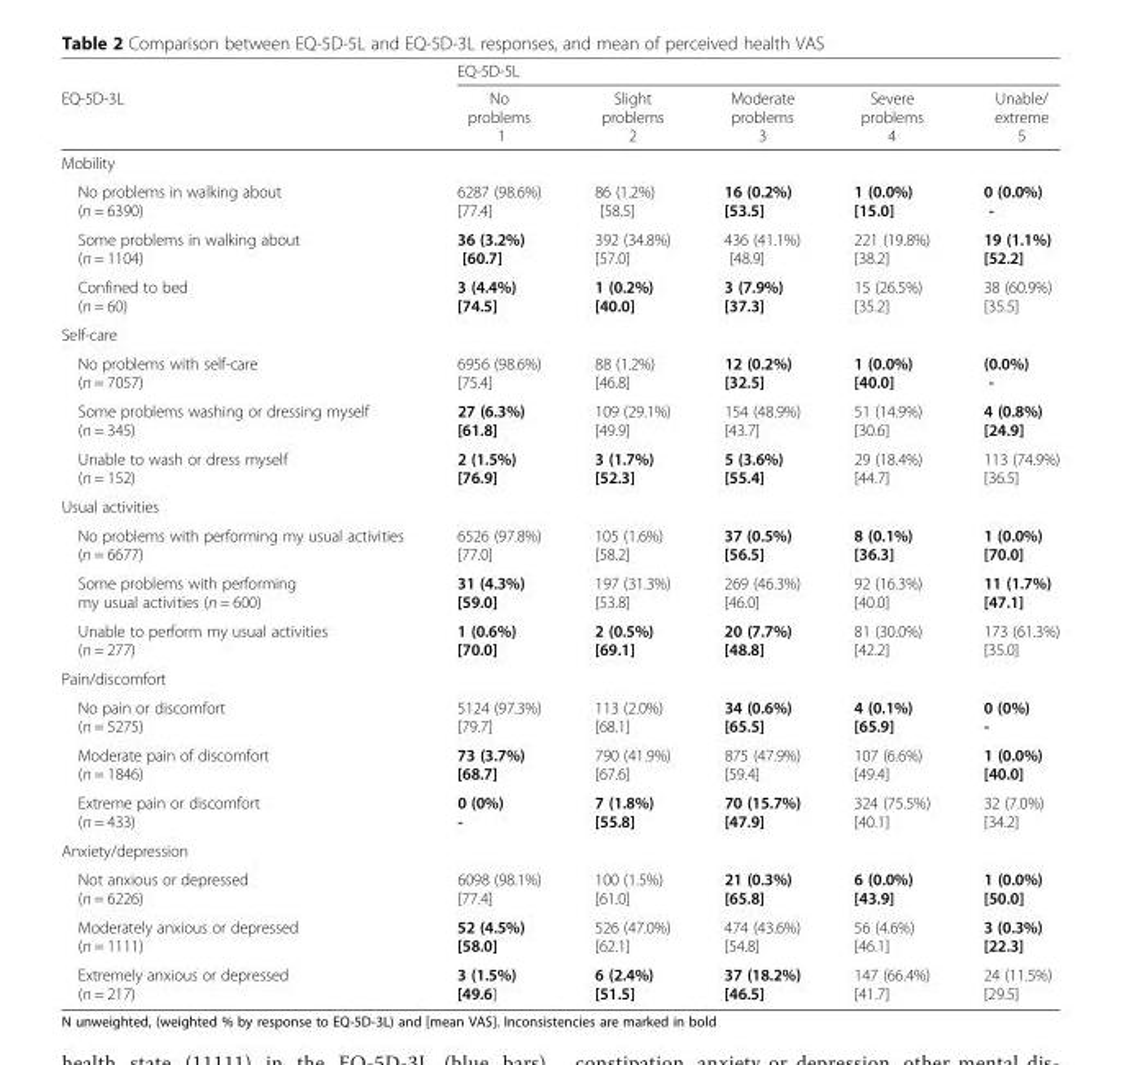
<table><thead><tr><td rowspan="2">EQ-5D-3L</td><td colspan="5">EQ-5D-5L</td></tr><tr><td>No problems 1</td><td>Slight problems 2</td><td>Moderate problems 3</td><td>Severe problems 4</td><td>Unable/ extreme 5</td></tr></thead><tbody><tr><td colspan="6">Mobility</td></tr><tr><td>No problems in walking about (n = 6390)</td><td>6287 (98.6%) [77.4]</td><td>86 (1.2%) [58.5]</td><td>16 (0.2%) [53.5]</td><td>1 (0.0%) [15.0]</td><td>0 (0.0%) -</td></tr><tr><td>Some problems in walking about (n = 1104)</td><td>36 (3.2%) [60.7]</td><td>392 (34.8%) [57.0]</td><td>436 (41.1%) [48.9]</td><td>221 (19.8%) [38.2]</td><td>19 (1.1%) [52.2]</td></tr><tr><td>Confined to bed (n = 60)</td><td>3 (4.4%) [74.5]</td><td>1 (0.2%) [40.0]</td><td>3 (7.9%) [37.3]</td><td>15 (26.5%) [35.2]</td><td>38 (60.9%) [35.5]</td></tr><tr><td colspan="6">Self-care</td></tr><tr><td>No problems with self-care (n = 7057)</td><td>6956 (98.6%) [75.4]</td><td>88 (1.2%) [46.8]</td><td>12 (0.2%) [32.5]</td><td>1 (0.0%) [40.0]</td><td>(0.0%) -</td></tr><tr><td>Some problems washing or dressing myself (n = 345)</td><td>27 (6.3%) [61.8]</td><td>109 (29.1%) [49.9]</td><td>154 (48.9%) [43.7]</td><td>51 (14.9%) [30.6]</td><td>4 (0.8%) [24.9]</td></tr><tr><td>Unable to wash or dress myself (n = 152)</td><td>2 (1.5%) [76.9]</td><td>3 (1.7%) [52.3]</td><td>5 (3.6%) [55.4]</td><td>29 (18.4%) [44.7]</td><td>113 (74.9%) [36.5]</td></tr><tr><td colspan="6">Usual activities</td></tr><tr><td>No problems with performing my usual activities (n = 6677)</td><td>6526 (97.8%) [77.0]</td><td>105 (1.6%) [58.2]</td><td>37 (0.5%) [56.5]</td><td>8 (0.1%) [36.3]</td><td>1 (0.0%) [70.0]</td></tr><tr><td>Some problems with performing my usual activities (n = 600)</td><td>31 (4.3%) [59.0]</td><td>197 (31.3%) [53.8]</td><td>269 (46.3%) [46.0]</td><td>92 (16.3%) [40.0]</td><td>11 (1.7%) [47.1]</td></tr><tr><td>Unable to perform my usual activities (n = 277)</td><td>1 (0.6%) [70.0]</td><td>2 (0.5%) [69.1]</td><td>20 (7.7%) [48.8]</td><td>81 (30.0%) [42.2]</td><td>173 (61.3%) [35.0]</td></tr><tr><td colspan="6">Pain/discomfort</td></tr><tr><td>No pain or discomfort (n = 5275)</td><td>5124 (97.3%) [79.7]</td><td>113 (2.0%) [68.1]</td><td>34 (0.6%) [65.5]</td><td>4 (0.1%) [65.9]</td><td>0 (0%) -</td></tr><tr><td>Moderate pain of discomfort (n = 1846)</td><td>73 (3.7%) [68.7]</td><td>790 (41.9%) [67.6]</td><td>875 (47.9%) [59.4]</td><td>107 (6.6%) [49.4]</td><td>1 (0.0%) [40.0]</td></tr><tr><td>Extreme pain or discomfort (n = 433)</td><td>0 (0%) -</td><td>7 (1.8%) [55.8]</td><td>70 (15.7%) [47.9]</td><td>324 (75.5%) [40.1]</td><td>32 (7.0%) [34.2]</td></tr><tr><td colspan="6">Anxiety/depression</td></tr><tr><td>Not anxious or depressed (n = 6226)</td><td>6098 (98.1%) [77.4]</td><td>100 (1.5%) [61.0]</td><td>21 (0.3%) [65.8]</td><td>6 (0.0%) [43.9]</td><td>1 (0.0%) [50.0]</td></tr><tr><td>Moderately anxious or depressed (n = 1111)</td><td>52 (4.5%) [58.0]</td><td>526 (47.0%) [62.1]</td><td>474 (43.6%) [54.8]</td><td>56 (4.6%) [46.1]</td><td>3 (0.3%) [22.3]</td></tr><tr><td>Extremely anxious or depressed (n = 217)</td><td>3 (1.5%) [49.6]</td><td>6 (2.4%) [51.5]</td><td>37 (18.2%) [46.5]</td><td>147 (66.4%) [41.7]</td><td>24 (11.5%) [29.5]</td></tr></tbody></table>